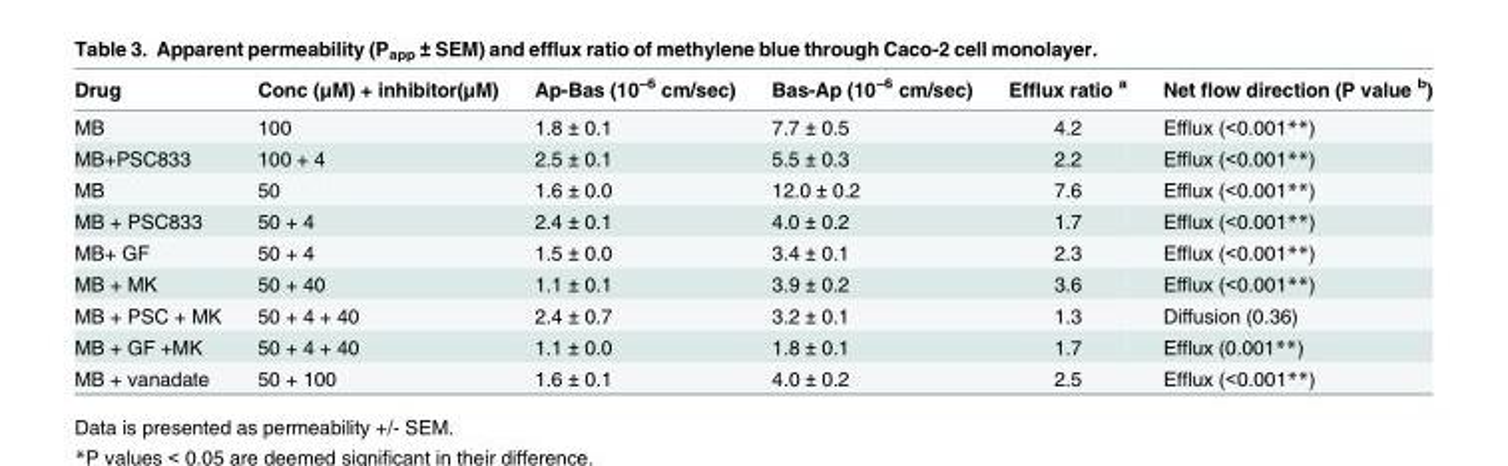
<table><thead><tr><td>Drug</td><td>Conc (μM) + inhibitor(μM)</td><td>Ap-Bas (10<sup>−6</sup> cm/sec)</td><td>Bas-Ap (10<sup>−6</sup> cm/sec)</td><td>Efflux ratio <sup>a</sup></td><td>Net flow direction (P value <sup>b</sup>)</td></tr></thead><tbody><tr><td>MB</td><td>100</td><td>1.8 ± 0.1</td><td>7.7 ± 0.5</td><td>4.2</td><td>Efflux (&lt;0.001**)</td></tr><tr><td>MB+PSC833</td><td>100 + 4</td><td>2.5 ± 0.1</td><td>5.5 ± 0.3</td><td>2.2</td><td>Efflux (&lt;0.001**)</td></tr><tr><td>MB</td><td>50</td><td>1.6 ± 0.0</td><td>12.0 ± 0.2</td><td>7.6</td><td>Efflux (&lt;0.001**)</td></tr><tr><td>MB + PSC833</td><td>50 + 4</td><td>2.4 ± 0.1</td><td>4.0 ± 0.2</td><td>1.7</td><td>Efflux (&lt;0.001**)</td></tr><tr><td>MB+ GF</td><td>50 + 4</td><td>1.5 ± 0.0</td><td>3.4 ± 0.1</td><td>2.3</td><td>Efflux (&lt;0.001**)</td></tr><tr><td>MB + MK</td><td>50 + 40</td><td>1.1 ± 0.1</td><td>3.9 ± 0.2</td><td>3.6</td><td>Efflux (&lt;0.001**)</td></tr><tr><td>MB + PSC + MK</td><td>50 + 4 + 40</td><td>2.4 ± 0.7</td><td>3.2 ± 0.1</td><td>1.3</td><td>Diffusion (0.36)</td></tr><tr><td>MB + GF +MK</td><td>50 + 4 + 40</td><td>1.1 ± 0.0</td><td>1.8 ± 0.1</td><td>1.7</td><td>Efflux (0.001**)</td></tr><tr><td>MB + vanadate</td><td>50 + 100</td><td>1.6 ± 0.1</td><td>4.0 ± 0.2</td><td>2.5</td><td>Efflux (&lt;0.001**)</td></tr></tbody></table>